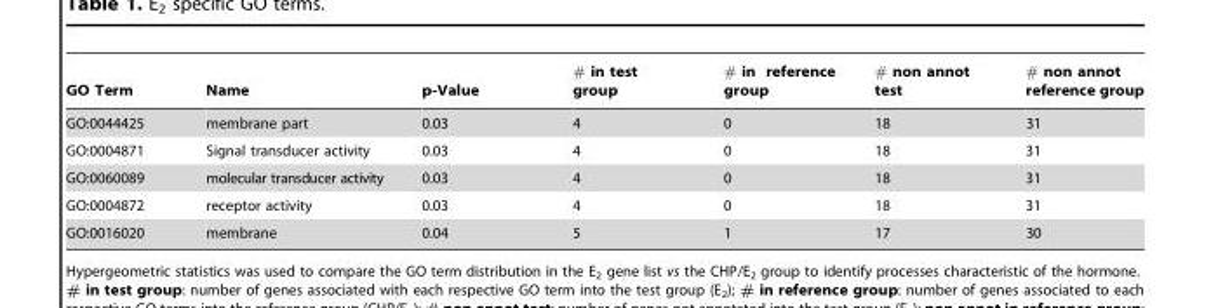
<table><thead><tr><td>GO Term</td><td>Name</td><td>p-Value</td><td># in test group</td><td># in reference group</td><td># non annot test</td><td># non annot reference group</td></tr></thead><tbody><tr><td>GO:0044425</td><td>membrane part</td><td>0.03</td><td>4</td><td>0</td><td>18</td><td>31</td></tr><tr><td>GO:0004871</td><td>Signal transducer activity</td><td>0.03</td><td>4</td><td>0</td><td>18</td><td>31</td></tr><tr><td>GO:0060089</td><td>molecular transducer activity</td><td>0.03</td><td>4</td><td>0</td><td>18</td><td>31</td></tr><tr><td>GO:0004872</td><td>receptor activity</td><td>0.03</td><td>4</td><td>0</td><td>18</td><td>31</td></tr><tr><td>GO:0016020</td><td>membrane</td><td>0.04</td><td>5</td><td>1</td><td>17</td><td>30</td></tr></tbody></table>